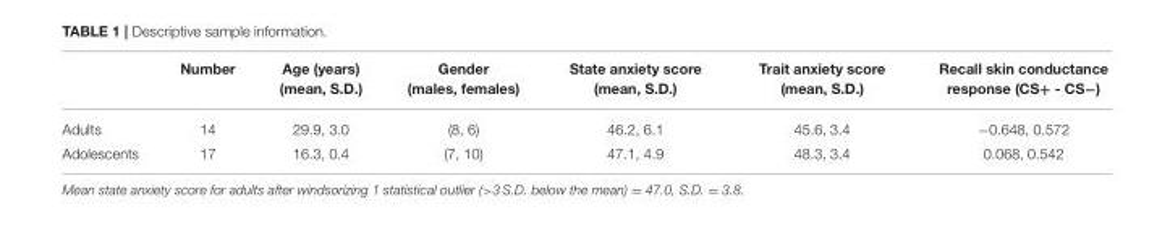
<table><thead><tr><td></td><td>Number</td><td>Age (years) (mean, S.D.)</td><td>Gender (males, females)</td><td>State anxiety score (mean, S.D.)</td><td>Trait anxiety score (mean, S.D.)</td><td>Recall skin conductance response (CS+ - CS−)</td></tr></thead><tbody><tr><td>Adults</td><td>14</td><td>29.9, 3.0</td><td>(8, 6)</td><td>46.2, 6.1</td><td>45.6, 3.4</td><td>−0.648, 0.572</td></tr><tr><td>Adolescents</td><td>17</td><td>16.3, 0.4</td><td>(7, 10)</td><td>47.1, 4.9</td><td>48.3, 3.4</td><td>0.068, 0.542</td></tr></tbody></table>